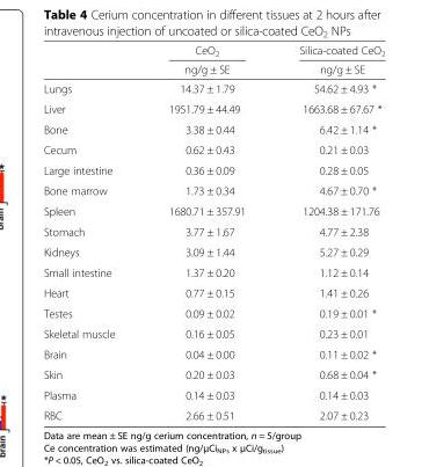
<table><thead><tr><td rowspan="2"></td><td rowspan="2">CeO<sub>2</sub> ng/g ± SE</td><td rowspan="2">Silica-coated CeO<sub>2</sub> ng/g ± SE</td></tr><tr></tr></thead><tbody><tr><td>Lungs</td><td>14.37 ± 1.79</td><td>54.62 ± 4.93 *</td></tr><tr><td>Liver</td><td>1951.79 ± 44.49</td><td>1663.68 ± 67.67 *</td></tr><tr><td>Bone</td><td>3.38 ± 0.44</td><td>6.42 ± 1.14 *</td></tr><tr><td>Cecum</td><td>0.62 ± 0.43</td><td>0.21 ± 0.03</td></tr><tr><td>Large intestine</td><td>0.36 ± 0.09</td><td>0.28 ± 0.05</td></tr><tr><td>Bone marrow</td><td>1.73 ± 0.34</td><td>4.67 ± 0.70 *</td></tr><tr><td>Spleen</td><td>1680.71 ± 357.91</td><td>1204.38 ± 171.76</td></tr><tr><td>Stomach</td><td>3.77 ± 1.67</td><td>4.77 ± 2.38</td></tr><tr><td>Kidneys</td><td>3.09 ± 1.44</td><td>5.27 ± 0.29</td></tr><tr><td>Small intestine</td><td>1.37 ± 0.20</td><td>1.12 ± 0.14</td></tr><tr><td>Heart</td><td>0.77 ± 0.15</td><td>1.41 ± 0.26</td></tr><tr><td>Testes</td><td>0.09 ± 0.02</td><td>0.19 ± 0.01 *</td></tr><tr><td>Skeletal muscle</td><td>0.16 ± 0.05</td><td>0.23 ± 0.01</td></tr><tr><td>Brain</td><td>0.04 ± 0.00</td><td>0.11 ± 0.02 *</td></tr><tr><td>Skin</td><td>0.20 ± 0.03</td><td>0.68 ± 0.04 *</td></tr><tr><td>Plasma</td><td>0.14 ± 0.03</td><td>0.14 ± 0.03</td></tr><tr><td>RBC</td><td>2.66 ± 0.51</td><td>2.07 ± 0.23</td></tr></tbody></table>